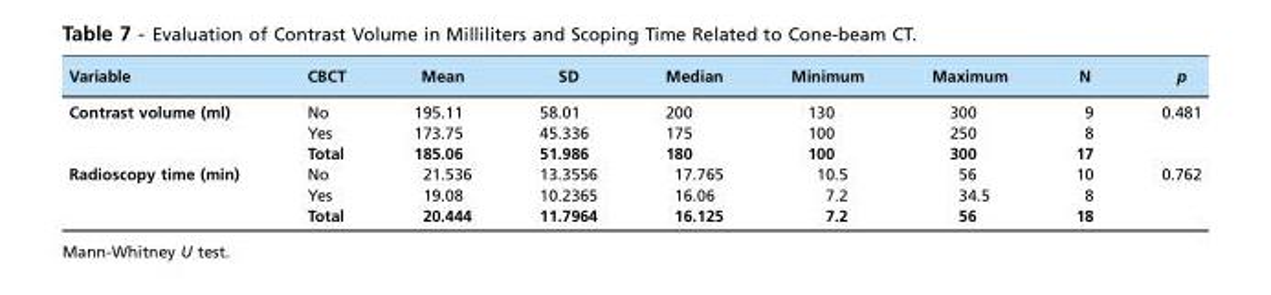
<table><thead><tr><td>Variable</td><td>CBCT</td><td>Mean</td><td>SD</td><td>Median</td><td>Minimum</td><td>Maximum</td><td>N</td><td>p</td></tr></thead><tbody><tr><td rowspan="3">Contrast volume (ml)</td><td>No</td><td>195.11</td><td>58.01</td><td>200</td><td>130</td><td>300</td><td>9</td><td>0.481</td></tr><tr><td>Yes</td><td>173.75</td><td>45.336</td><td>175</td><td>100</td><td>250</td><td>8</td><td></td></tr><tr><td>Total</td><td>185.06</td><td>51.986</td><td>180</td><td>100</td><td>300</td><td>17</td><td></td></tr><tr><td rowspan="3">Radioscopy time (min)</td><td>No</td><td>21.536</td><td>13.3556</td><td>17.765</td><td>10.5</td><td>56</td><td>10</td><td>0.762</td></tr><tr><td>Yes</td><td>19.08</td><td>10.2365</td><td>16.06</td><td>7.2</td><td>34.5</td><td>8</td><td></td></tr><tr><td>Total</td><td>20.444</td><td>11.7964</td><td>16.125</td><td>7.2</td><td>56</td><td>18</td><td></td></tr></tbody></table>